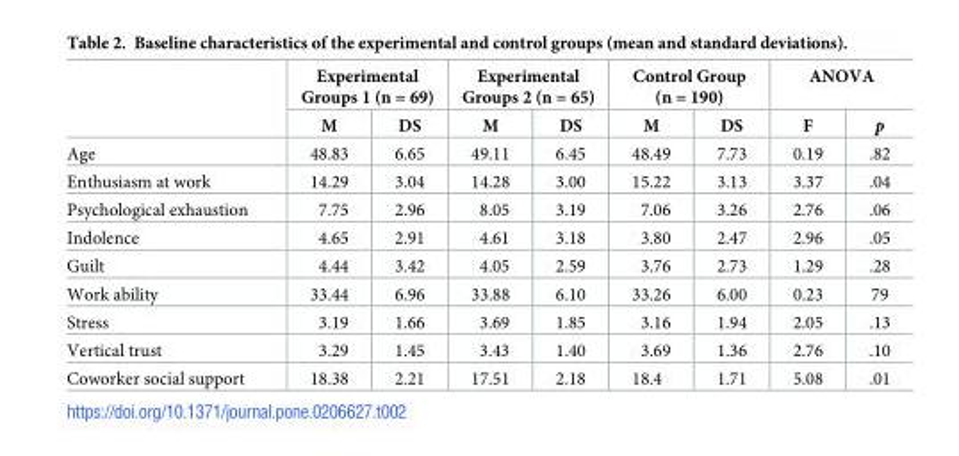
<table><thead><tr><td rowspan="2"></td><td colspan="2">Experimental Groups 1 (n = 69)</td><td colspan="2">Experimental Groups 2 (n = 65)</td><td colspan="2">Control Group (n = 190)</td><td colspan="2">ANOVA</td></tr><tr><td>M</td><td>DS</td><td>M</td><td>DS</td><td>M</td><td>DS</td><td>F</td><td>p</td></tr></thead><tbody><tr><td>Age</td><td>48.83</td><td>6.65</td><td>49.11</td><td>6.45</td><td>48.49</td><td>7.73</td><td>0.19</td><td>.82</td></tr><tr><td>Enthusiasm at work</td><td>14.29</td><td>3.04</td><td>14.28</td><td>3.00</td><td>15.22</td><td>3.13</td><td>3.37</td><td>.04</td></tr><tr><td>Psychological exhaustion</td><td>7.75</td><td>2.96</td><td>8.05</td><td>3.19</td><td>7.06</td><td>3.26</td><td>2.76</td><td>.06</td></tr><tr><td>Indolence</td><td>4.65</td><td>2.91</td><td>4.61</td><td>3.18</td><td>3.80</td><td>2.47</td><td>2.96</td><td>.05</td></tr><tr><td>Guilt</td><td>4.44</td><td>3.42</td><td>4.05</td><td>2.59</td><td>3.76</td><td>2.73</td><td>1.29</td><td>.28</td></tr><tr><td>Work ability</td><td>33.44</td><td>6.96</td><td>33.88</td><td>6.10</td><td>33.26</td><td>6.00</td><td>0.23</td><td>79</td></tr><tr><td>Stress</td><td>3.19</td><td>1.66</td><td>3.69</td><td>1.85</td><td>3.16</td><td>1.94</td><td>2.05</td><td>.13</td></tr><tr><td>Vertical trust</td><td>3.29</td><td>1.45</td><td>3.43</td><td>1.40</td><td>3.69</td><td>1.36</td><td>2.76</td><td>.10</td></tr><tr><td>Coworker social support</td><td>18.38</td><td>2.21</td><td>17.51</td><td>2.18</td><td>18.4</td><td>1.71</td><td>5.08</td><td>.01</td></tr></tbody></table>